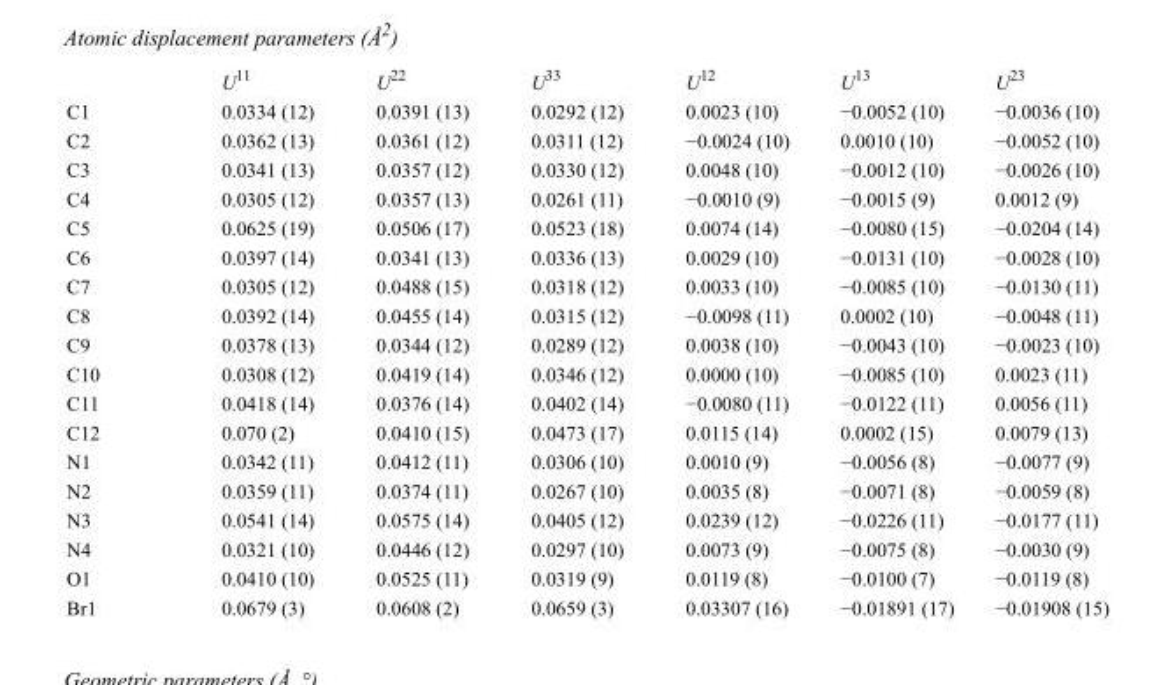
<table><thead><tr><td></td><td>U<sup>11</sup></td><td>U<sup>22</sup></td><td>U<sup>33</sup></td><td>U<sup>12</sup></td><td>U<sup>13</sup></td><td>U<sup>23</sup></td></tr></thead><tbody><tr><td>C1</td><td>0.0334 (12)</td><td>0.0391 (13)</td><td>0.0292 (12)</td><td>0.0023 (10)</td><td>−0.0052 (10)</td><td>−0.0036 (10)</td></tr><tr><td>C2</td><td>0.0362 (13)</td><td>0.0361 (12)</td><td>0.0311 (12)</td><td>−0.0024 (10)</td><td>0.0010 (10)</td><td>−0.0052 (10)</td></tr><tr><td>C3</td><td>0.0341 (13)</td><td>0.0357 (12)</td><td>0.0330 (12)</td><td>0.0048 (10)</td><td>−0.0012 (10)</td><td>−0.0026 (10)</td></tr><tr><td>C4</td><td>0.0305 (12)</td><td>0.0357 (13)</td><td>0.0261 (11)</td><td>−0.0010 (9)</td><td>−0.0015 (9)</td><td>0.0012 (9)</td></tr><tr><td>C5</td><td>0.0625 (19)</td><td>0.0506 (17)</td><td>0.0523 (18)</td><td>0.0074 (14)</td><td>−0.0080 (15)</td><td>−0.0204 (14)</td></tr><tr><td>C6</td><td>0.0397 (14)</td><td>0.0341 (13)</td><td>0.0336 (13)</td><td>0.0029 (10)</td><td>−0.0131 (10)</td><td>−0.0028 (10)</td></tr><tr><td>C7</td><td>0.0305 (12)</td><td>0.0488 (15)</td><td>0.0318 (12)</td><td>0.0033 (10)</td><td>−0.0085 (10)</td><td>−0.0130 (11)</td></tr><tr><td>C8</td><td>0.0392 (14)</td><td>0.0455 (14)</td><td>0.0315 (12)</td><td>−0.0098 (11)</td><td>0.0002 (10)</td><td>−0.0048 (11)</td></tr><tr><td>C9</td><td>0.0378 (13)</td><td>0.0344 (12)</td><td>0.0289 (12)</td><td>0.0038 (10)</td><td>−0.0043 (10)</td><td>−0.0023 (10)</td></tr><tr><td>C10</td><td>0.0308 (12)</td><td>0.0419 (14)</td><td>0.0346 (12)</td><td>0.0000 (10)</td><td>−0.0085 (10)</td><td>0.0023 (11)</td></tr><tr><td>C11</td><td>0.0418 (14)</td><td>0.0376 (14)</td><td>0.0402 (14)</td><td>−0.0080 (11)</td><td>−0.0122 (11)</td><td>0.0056 (11)</td></tr><tr><td>C12</td><td>0.070 (2)</td><td>0.0410 (15)</td><td>0.0473 (17)</td><td>0.0115 (14)</td><td>0.0002 (15)</td><td>0.0079 (13)</td></tr><tr><td>N1</td><td>0.0342 (11)</td><td>0.0412 (11)</td><td>0.0306 (10)</td><td>0.0010 (9)</td><td>−0.0056 (8)</td><td>−0.0077 (9)</td></tr><tr><td>N2</td><td>0.0359 (11)</td><td>0.0374 (11)</td><td>0.0267 (10)</td><td>0.0035 (8)</td><td>−0.0071 (8)</td><td>−0.0059 (8)</td></tr><tr><td>N3</td><td>0.0541 (14)</td><td>0.0575 (14)</td><td>0.0405 (12)</td><td>0.0239 (12)</td><td>−0.0226 (11)</td><td>−0.0177 (11)</td></tr><tr><td>N4</td><td>0.0321 (10)</td><td>0.0446 (12)</td><td>0.0297 (10)</td><td>0.0073 (9)</td><td>−0.0075 (8)</td><td>−0.0030 (9)</td></tr><tr><td>O1</td><td>0.0410 (10)</td><td>0.0525 (11)</td><td>0.0319 (9)</td><td>0.0119 (8)</td><td>−0.0100 (7)</td><td>−0.0119 (8)</td></tr><tr><td>Br1</td><td>0.0679 (3)</td><td>0.0608 (2)</td><td>0.0659 (3)</td><td>0.03307 (16)</td><td>−0.01891 (17)</td><td>−0.01908 (15)</td></tr></tbody></table>